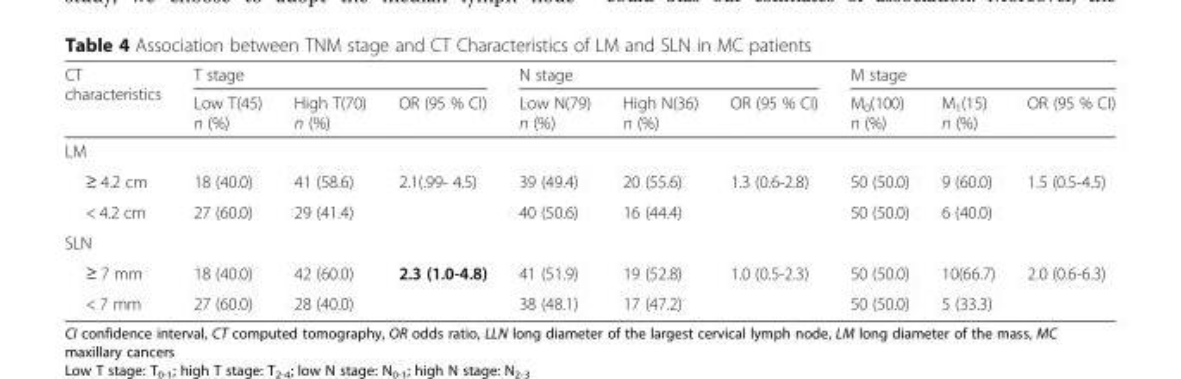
<table><thead><tr><td rowspan="2">CT characteristics</td><td colspan="3">T stage</td><td colspan="3">N stage</td><td colspan="3">M stage</td></tr><tr><td>Low T(45) n (%)</td><td>High T(70) n (%)</td><td>OR (95 % CI)</td><td>Low N(79) n (%)</td><td>High N(36) n (%)</td><td>OR (95 % CI)</td><td>M<sub>0</sub>(100) n (%)</td><td>M<sub>1</sub>(15) n (%)</td><td>OR (95 % CI)</td></tr></thead><tbody><tr><td colspan="10">LM</td></tr><tr><td>≥ 4.2 cm</td><td>18 (40.0)</td><td>41 (58.6)</td><td>2.1(.99- 4.5)</td><td>39 (49.4)</td><td>20 (55.6)</td><td>1.3 (0.6-2.8)</td><td>50 (50.0)</td><td>9 (60.0)</td><td>1.5 (0.5-4.5)</td></tr><tr><td>&lt; 4.2 cm</td><td>27 (60.0)</td><td>29 (41.4)</td><td></td><td>40 (50.6)</td><td>16 (44.4)</td><td></td><td>50 (50.0)</td><td>6 (40.0)</td><td></td></tr><tr><td colspan="10">SLN</td></tr><tr><td>≥ 7 mm</td><td>18 (40.0)</td><td>42 (60.0)</td><td>2.3 (1.0-4.8)</td><td>41 (51.9)</td><td>19 (52.8)</td><td>1.0 (0.5-2.3)</td><td>50 (50.0)</td><td>10(66.7)</td><td>2.0 (0.6-6.3)</td></tr><tr><td>&lt; 7 mm</td><td>27 (60.0)</td><td>28 (40.0)</td><td></td><td>38 (48.1)</td><td>17 (47.2)</td><td></td><td>50 (50.0)</td><td>5 (33.3)</td><td></td></tr></tbody></table>